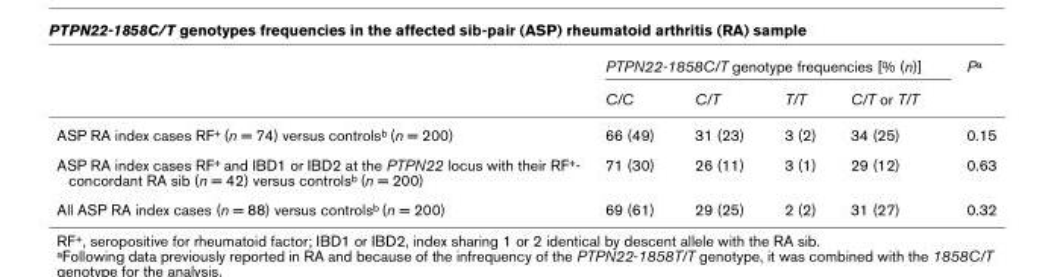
<table><thead><tr><td rowspan="2"></td><td colspan="4">PTPN22-1858C/T genotype frequencies [% (n)]</td><td rowspan="2">Pa</td></tr><tr><td>C/C</td><td>C/T</td><td>T/T</td><td>C/T or T/T</td></tr></thead><tbody><tr><td>ASP RA index cases RF+ (n = 74) versus controlsb (n = 200)</td><td>66 (49)</td><td>31 (23)</td><td>3 (2)</td><td>34 (25)</td><td>0.15</td></tr><tr><td>ASP RA index cases RF+ and IBD1 or IBD2 at the PTPN22 locus with their RF+- concordant RA sib (n = 42) versus controlsb (n = 200)</td><td>71 (30)</td><td>26 (11)</td><td>3 (1)</td><td>29 (12)</td><td>0.63</td></tr><tr><td>All ASP RA index cases (n = 88) versus controlsb (n = 200)</td><td>69 (61)</td><td>29 (25)</td><td>2 (2)</td><td>31 (27)</td><td>0.32</td></tr></tbody></table>